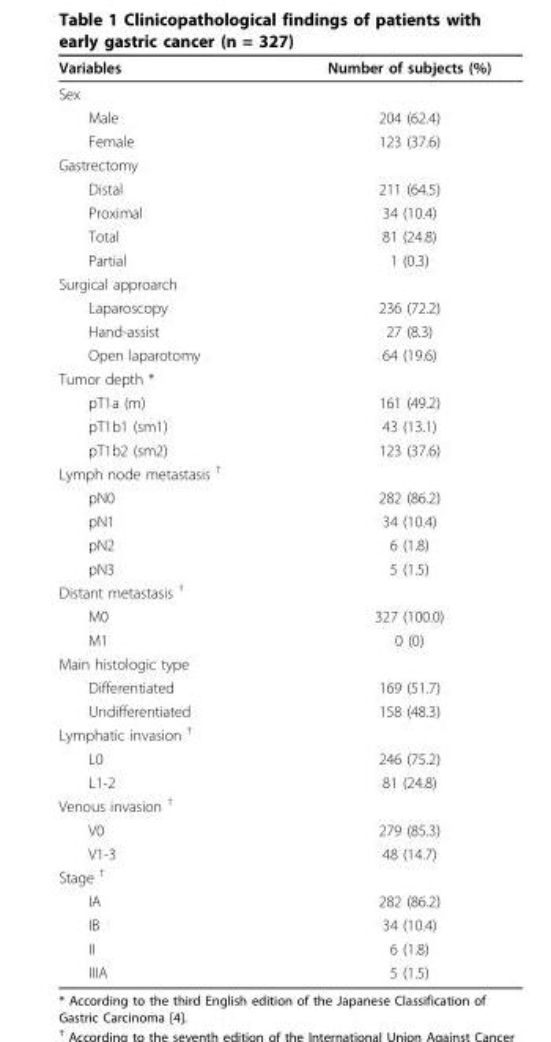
<table><thead><tr><td>Variables</td><td>Number of subjects (%)</td></tr></thead><tbody><tr><td colspan="2">Sex</td></tr><tr><td>Male</td><td>204 (62.4)</td></tr><tr><td>Female</td><td>123 (37.6)</td></tr><tr><td colspan="2">Gastrectomy</td></tr><tr><td>Distal</td><td>211 (64.5)</td></tr><tr><td>Proximal</td><td>34 (10.4)</td></tr><tr><td>Total</td><td>81 (24.8)</td></tr><tr><td>Partial</td><td>1 (0.3)</td></tr><tr><td colspan="2">Surgical approarch</td></tr><tr><td>Laparoscopy</td><td>236 (72.2)</td></tr><tr><td>Hand-assist</td><td>27 (8.3)</td></tr><tr><td>Open laparotomy</td><td>64 (19.6)</td></tr><tr><td colspan="2">Tumor depth *</td></tr><tr><td>pT1a (m)</td><td>161 (49.2)</td></tr><tr><td>pT1b1 (sm1)</td><td>43 (13.1)</td></tr><tr><td>pT1b2 (sm2)</td><td>123 (37.6)</td></tr><tr><td colspan="2">Lymph node metastasis <sup>†</sup></td></tr><tr><td>pN0</td><td>282 (86.2)</td></tr><tr><td>pN1</td><td>34 (10.4)</td></tr><tr><td>pN2</td><td>6 (1.8)</td></tr><tr><td>pN3</td><td>5 (1.5)</td></tr><tr><td colspan="2">Distant metastasis <sup>†</sup></td></tr><tr><td>M0</td><td>327 (100.0)</td></tr><tr><td>M1</td><td>0 (0)</td></tr><tr><td colspan="2">Main histologic type</td></tr><tr><td>Differentiated</td><td>169 (51.7)</td></tr><tr><td>Undifferentiated</td><td>158 (48.3)</td></tr><tr><td colspan="2">Lymphatic invasion <sup>†</sup></td></tr><tr><td>L0</td><td>246 (75.2)</td></tr><tr><td>L1-2</td><td>81 (24.8)</td></tr><tr><td colspan="2">Venous invasion <sup>†</sup></td></tr><tr><td>V0</td><td>279 (85.3)</td></tr><tr><td>V1-3</td><td>48 (14.7)</td></tr><tr><td colspan="2">Stage <sup>†</sup></td></tr><tr><td>IA</td><td>282 (86.2)</td></tr><tr><td>IB</td><td>34 (10.4)</td></tr><tr><td>II</td><td>6 (1.8)</td></tr><tr><td>IIIA</td><td>5 (1.5)</td></tr></tbody></table>